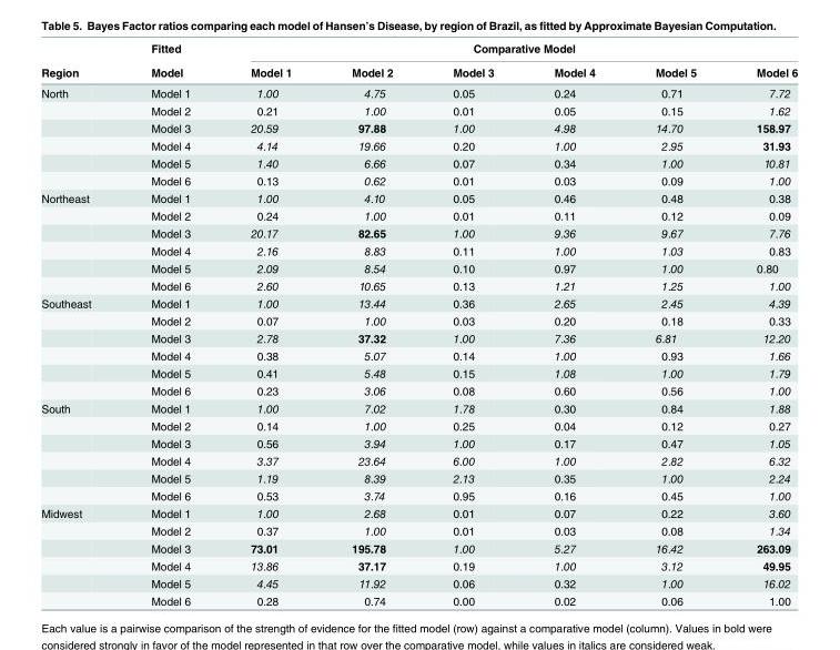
<table><thead><tr><td rowspan="2">Region</td><td rowspan="2">Fitted Model</td><td colspan="6">Comparative Model</td></tr><tr><td>Model 1</td><td>Model 2</td><td>Model 3</td><td>Model 4</td><td>Model 5</td><td>Model 6</td></tr></thead><tbody><tr><td rowspan="6">North</td><td>Model 1</td><td>1.00</td><td>4.75</td><td>0.05</td><td>0.24</td><td>0.71</td><td>7.72</td></tr><tr><td>Model 2</td><td>0.21</td><td>1.00</td><td>0.01</td><td>0.05</td><td>0.15</td><td>1.62</td></tr><tr><td>Model 3</td><td>20.59</td><td>97.88</td><td>1.00</td><td>4.98</td><td>14.70</td><td>158.97</td></tr><tr><td>Model 4</td><td>4.14</td><td>19.66</td><td>0.20</td><td>1.00</td><td>2.95</td><td>31.93</td></tr><tr><td>Model 5</td><td>1.40</td><td>6.66</td><td>0.07</td><td>0.34</td><td>1.00</td><td>10.81</td></tr><tr><td>Model 6</td><td>0.13</td><td>0.62</td><td>0.01</td><td>0.03</td><td>0.09</td><td>1.00</td></tr><tr><td rowspan="6">Northeast</td><td>Model 1</td><td>1.00</td><td>4.10</td><td>0.05</td><td>0.46</td><td>0.48</td><td>0.38</td></tr><tr><td>Model 2</td><td>0.24</td><td>1.00</td><td>0.01</td><td>0.11</td><td>0.12</td><td>0.09</td></tr><tr><td>Model 3</td><td>20.17</td><td>82.65</td><td>1.00</td><td>9.36</td><td>9.67</td><td>7.76</td></tr><tr><td>Model 4</td><td>2.16</td><td>8.83</td><td>0.11</td><td>1.00</td><td>1.03</td><td>0.83</td></tr><tr><td>Model 5</td><td>2.09</td><td>8.54</td><td>0.10</td><td>0.97</td><td>1.00</td><td>0.80</td></tr><tr><td>Model 6</td><td>2.60</td><td>10.65</td><td>0.13</td><td>1.21</td><td>1.25</td><td>1.00</td></tr><tr><td rowspan="6">Southeast</td><td>Model 1</td><td>1.00</td><td>13.44</td><td>0.36</td><td>2.65</td><td>2.45</td><td>4.39</td></tr><tr><td>Model 2</td><td>0.07</td><td>1.00</td><td>0.03</td><td>0.20</td><td>0.18</td><td>0.33</td></tr><tr><td>Model 3</td><td>2.78</td><td>37.32</td><td>1.00</td><td>7.36</td><td>6.81</td><td>12.20</td></tr><tr><td>Model 4</td><td>0.38</td><td>5.07</td><td>0.14</td><td>1.00</td><td>0.93</td><td>1.66</td></tr><tr><td>Model 5</td><td>0.41</td><td>5.48</td><td>0.15</td><td>1.08</td><td>1.00</td><td>1.79</td></tr><tr><td>Model 6</td><td>0.23</td><td>3.06</td><td>0.08</td><td>0.60</td><td>0.56</td><td>1.00</td></tr><tr><td rowspan="6">South</td><td>Model 1</td><td>1.00</td><td>7.02</td><td>1.78</td><td>0.30</td><td>0.84</td><td>1.88</td></tr><tr><td>Model 2</td><td>0.14</td><td>1.00</td><td>0.25</td><td>0.04</td><td>0.12</td><td>0.27</td></tr><tr><td>Model 3</td><td>0.56</td><td>3.94</td><td>1.00</td><td>0.17</td><td>0.47</td><td>1.05</td></tr><tr><td>Model 4</td><td>3.37</td><td>23.64</td><td>6.00</td><td>1.00</td><td>2.82</td><td>6.32</td></tr><tr><td>Model 5</td><td>1.19</td><td>8.39</td><td>2.13</td><td>0.35</td><td>1.00</td><td>2.24</td></tr><tr><td>Model 6</td><td>0.53</td><td>3.74</td><td>0.95</td><td>0.16</td><td>0.45</td><td>1.00</td></tr><tr><td rowspan="6">Midwest</td><td>Model 1</td><td>1.00</td><td>2.68</td><td>0.01</td><td>0.07</td><td>0.22</td><td>3.60</td></tr><tr><td>Model 2</td><td>0.37</td><td>1.00</td><td>0.01</td><td>0.03</td><td>0.08</td><td>1.34</td></tr><tr><td>Model 3</td><td>73.01</td><td>195.78</td><td>1.00</td><td>5.27</td><td>16.42</td><td>263.09</td></tr><tr><td>Model 4</td><td>13.86</td><td>37.17</td><td>0.19</td><td>1.00</td><td>3.12</td><td>49.95</td></tr><tr><td>Model 5</td><td>4.45</td><td>11.92</td><td>0.06</td><td>0.32</td><td>1.00</td><td>16.02</td></tr><tr><td>Model 6</td><td>0.28</td><td>0.74</td><td>0.00</td><td>0.02</td><td>0.06</td><td>1.00</td></tr></tbody></table>